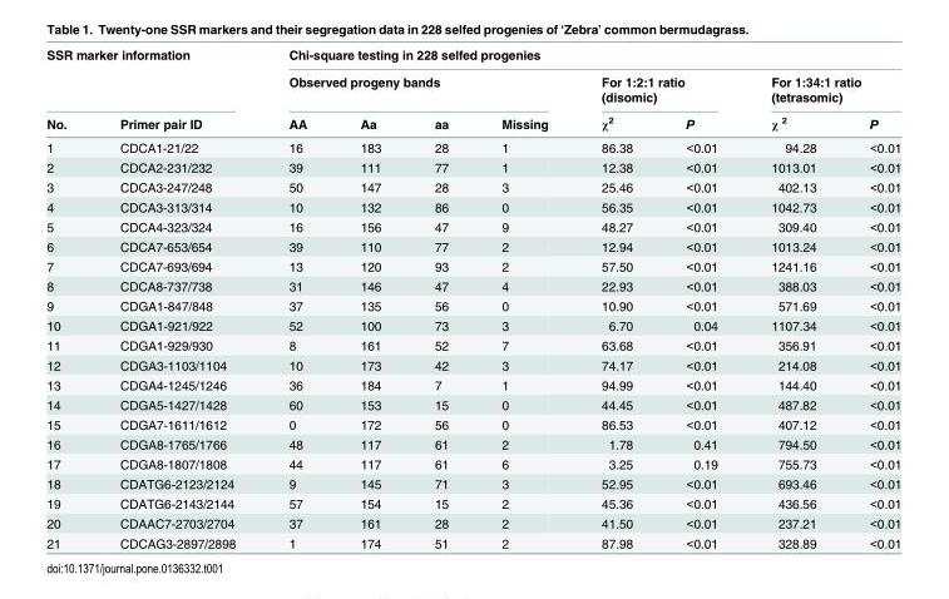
<table><thead><tr><td colspan="2">SSR marker information</td><td colspan="8">Chi-square testing in 228 selfed progenies</td></tr><tr><td rowspan="2">No.</td><td rowspan="2">Primer pair ID</td><td colspan="4">Observed progeny bands</td><td colspan="2">For 1:2:1 ratio (disomic)</td><td colspan="2">For 1:34:1 ratio (tetrasomic)</td></tr><tr><td>AA</td><td>Aa</td><td>aa</td><td>Missing</td><td>χ<sup>2</sup></td><td>P</td><td>χ <sup>2</sup></td><td>P</td></tr></thead><tbody><tr><td>1</td><td>CDCA1-21/22</td><td>16</td><td>183</td><td>28</td><td>1</td><td>86.38</td><td>&lt;0.01</td><td>94.28</td><td>&lt;0.01</td></tr><tr><td>2</td><td>CDCA2-231/232</td><td>39</td><td>111</td><td>77</td><td>1</td><td>12.38</td><td>&lt;0.01</td><td>1013.01</td><td>&lt;0.01</td></tr><tr><td>3</td><td>CDCA3-247/248</td><td>50</td><td>147</td><td>28</td><td>3</td><td>25.46</td><td>&lt;0.01</td><td>402.13</td><td>&lt;0.01</td></tr><tr><td>4</td><td>CDCA3-313/314</td><td>10</td><td>132</td><td>86</td><td>0</td><td>56.35</td><td>&lt;0.01</td><td>1042.73</td><td>&lt;0.01</td></tr><tr><td>5</td><td>CDCA4-323/324</td><td>16</td><td>156</td><td>47</td><td>9</td><td>48.27</td><td>&lt;0.01</td><td>309.40</td><td>&lt;0.01</td></tr><tr><td>6</td><td>CDCA7-653/654</td><td>39</td><td>110</td><td>77</td><td>2</td><td>12.94</td><td>&lt;0.01</td><td>1013.24</td><td>&lt;0.01</td></tr><tr><td>7</td><td>CDCA7-693/694</td><td>13</td><td>120</td><td>93</td><td>2</td><td>57.50</td><td>&lt;0.01</td><td>1241.16</td><td>&lt;0.01</td></tr><tr><td>8</td><td>CDCA8-737/738</td><td>31</td><td>146</td><td>47</td><td>4</td><td>22.93</td><td>&lt;0.01</td><td>388.03</td><td>&lt;0.01</td></tr><tr><td>9</td><td>CDGA1-847/848</td><td>37</td><td>135</td><td>56</td><td>0</td><td>10.90</td><td>&lt;0.01</td><td>571.69</td><td>&lt;0.01</td></tr><tr><td>10</td><td>CDGA1-921/922</td><td>52</td><td>100</td><td>73</td><td>3</td><td>6.70</td><td>0.04</td><td>1107.34</td><td>&lt;0.01</td></tr><tr><td>11</td><td>CDGA1-929/930</td><td>8</td><td>161</td><td>52</td><td>7</td><td>63.68</td><td>&lt;0.01</td><td>356.91</td><td>&lt;0.01</td></tr><tr><td>12</td><td>CDGA3-1103/1104</td><td>10</td><td>173</td><td>42</td><td>3</td><td>74.17</td><td>&lt;0.01</td><td>214.08</td><td>&lt;0.01</td></tr><tr><td>13</td><td>CDGA4-1245/1246</td><td>36</td><td>184</td><td>7</td><td>1</td><td>94.99</td><td>&lt;0.01</td><td>144.40</td><td>&lt;0.01</td></tr><tr><td>14</td><td>CDGA5-1427/1428</td><td>60</td><td>153</td><td>15</td><td>0</td><td>44.45</td><td>&lt;0.01</td><td>487.82</td><td>&lt;0.01</td></tr><tr><td>15</td><td>CDGA7-1611/1612</td><td>0</td><td>172</td><td>56</td><td>0</td><td>86.53</td><td>&lt;0.01</td><td>407.12</td><td>&lt;0.01</td></tr><tr><td>16</td><td>CDGA8-1765/1766</td><td>48</td><td>117</td><td>61</td><td>2</td><td>1.78</td><td>0.41</td><td>794.50</td><td>&lt;0.01</td></tr><tr><td>17</td><td>CDGA8-1807/1808</td><td>44</td><td>117</td><td>61</td><td>6</td><td>3.25</td><td>0.19</td><td>755.73</td><td>&lt;0.01</td></tr><tr><td>18</td><td>CDATG6-2123/2124</td><td>9</td><td>145</td><td>71</td><td>3</td><td>52.95</td><td>&lt;0.01</td><td>693.46</td><td>&lt;0.01</td></tr><tr><td>19</td><td>CDATG6-2143/2144</td><td>57</td><td>154</td><td>15</td><td>2</td><td>45.36</td><td>&lt;0.01</td><td>436.56</td><td>&lt;0.01</td></tr><tr><td>20</td><td>CDAAC7-2703/2704</td><td>37</td><td>161</td><td>28</td><td>2</td><td>41.50</td><td>&lt;0.01</td><td>237.21</td><td>&lt;0.01</td></tr><tr><td>21</td><td>CDCAG3-2897/2898</td><td>1</td><td>174</td><td>51</td><td>2</td><td>87.98</td><td>&lt;0.01</td><td>328.89</td><td>&lt;0.01</td></tr></tbody></table>